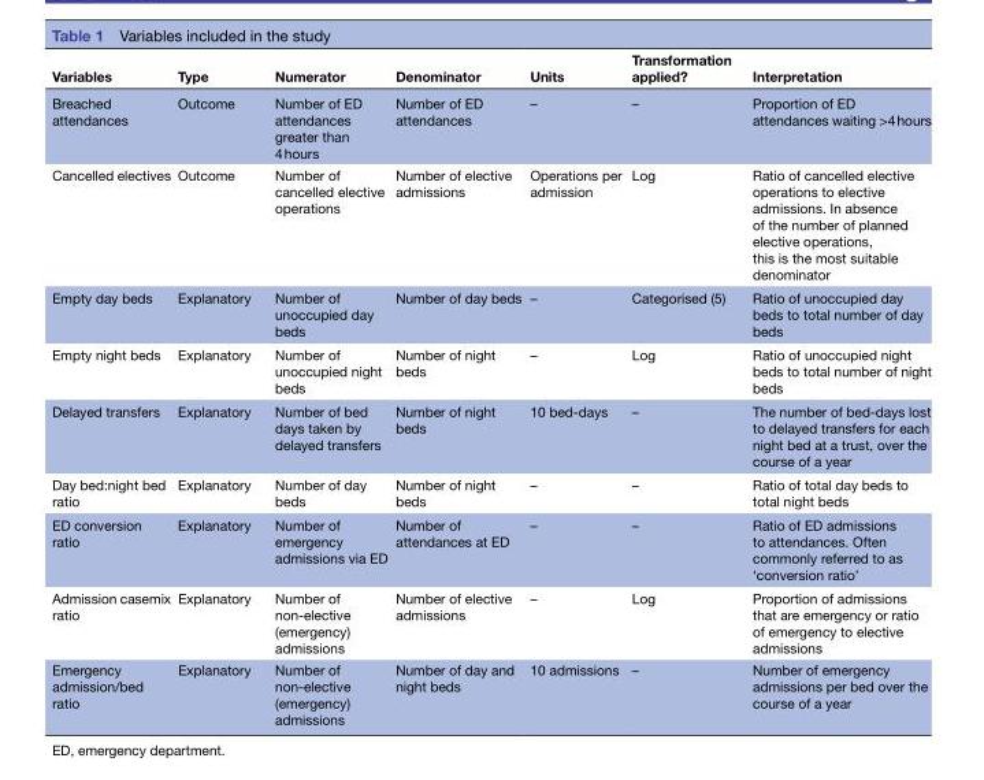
<table><thead><tr><td>Variables</td><td>Type</td><td>Numerator</td><td>Denominator</td><td>Units</td><td>Transformation applied?</td><td>Interpretation</td></tr></thead><tbody><tr><td>Breached attendances</td><td>Outcome</td><td>Number of ED attendances greater than 4 hours</td><td>Number of ED attendances</td><td>–</td><td>–</td><td>Proportion of ED attendances waiting &gt;4 hours</td></tr><tr><td>Cancelled electives</td><td>Outcome</td><td>Number of cancelled elective operations</td><td>Number of elective admissions</td><td>Operations per admission</td><td>Log</td><td>Ratio of cancelled elective operations to elective admissions. In absence of the number of planned elective operations, this is the most suitable denominator</td></tr><tr><td>Empty day beds</td><td>Explanatory</td><td>Number of unoccupied day beds</td><td>Number of day beds</td><td>–</td><td>Categorised (5)</td><td>Ratio of unoccupied day beds to total number of day beds</td></tr><tr><td>Empty night beds</td><td>Explanatory</td><td>Number of unoccupied night beds</td><td>Number of night beds</td><td>–</td><td>Log</td><td>Ratio of unoccupied night beds to total number of night beds</td></tr><tr><td>Delayed transfers</td><td>Explanatory</td><td>Number of bed days taken by delayed transfers</td><td>Number of night beds</td><td>10 bed-days</td><td>–</td><td>The number of bed-days lost to delayed transfers for each night bed at a trust, over the course of a year</td></tr><tr><td>Day bed:night bed ratio</td><td>Explanatory</td><td>Number of day beds</td><td>Number of night beds</td><td>–</td><td>–</td><td>Ratio of total day beds to total night beds</td></tr><tr><td>ED conversion ratio</td><td>Explanatory</td><td>Number of emergency admissions via ED</td><td>Number of attendances at ED</td><td>–</td><td>–</td><td>Ratio of ED admissions to attendances. Often commonly referred to as ‘conversion ratio’</td></tr><tr><td>Admission casemix ratio</td><td>Explanatory</td><td>Number of non-elective (emergency) admissions</td><td>Number of elective admissions</td><td>–</td><td>Log</td><td>Proportion of admissions that are emergency or ratio of emergency to elective admissions</td></tr><tr><td>Emergency admission/bed ratio</td><td>Explanatory</td><td>Number of non-elective (emergency) admissions</td><td>Number of day and night beds</td><td>10 admissions</td><td>–</td><td>Number of emergency admissions per bed over the course of a year</td></tr></tbody></table>